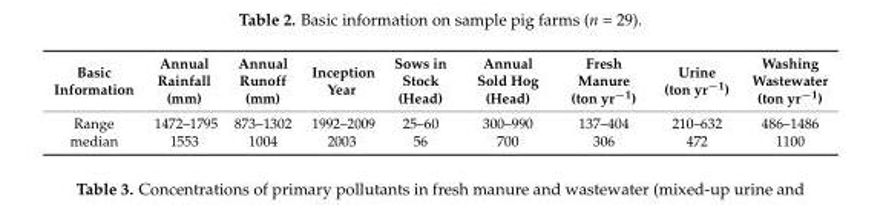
<table><thead><tr><td>Basic Information</td><td>Annual Rainfall (mm)</td><td>Annual Runoff (mm)</td><td>Inception Year</td><td>Sows in Stock (Head)</td><td>Annual Sold Hog (Head)</td><td>Fresh Manure (ton yr<sup>−1</sup>)</td><td>Urine (ton yr<sup>−1</sup>)</td><td>Washing Wastewater (ton yr<sup>−1</sup>)</td></tr></thead><tbody><tr><td>Range</td><td>1472–1795</td><td>873–1302</td><td>1992–2009</td><td>25–60</td><td>300–990</td><td>137–404</td><td>210–632</td><td>486–1486</td></tr><tr><td>median</td><td>1553</td><td>1004</td><td>2003</td><td>56</td><td>700</td><td>306</td><td>472</td><td>1100</td></tr></tbody></table>